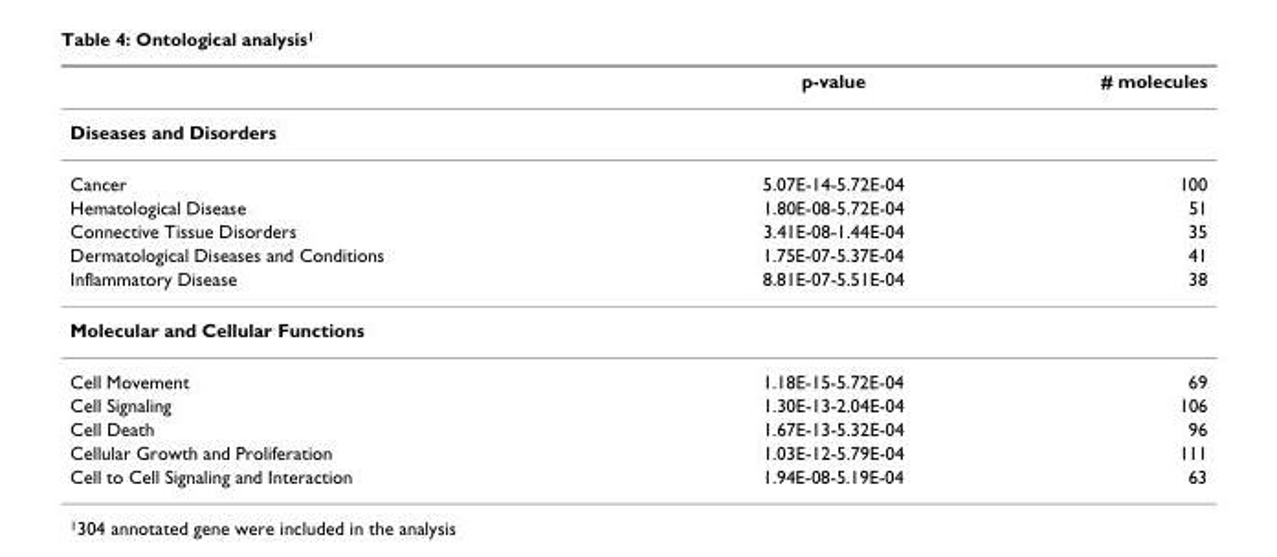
<table><thead><tr><td></td><td>p-value</td><td># molecules</td></tr></thead><tbody><tr><td colspan="3">Diseases and Disorders</td></tr><tr><td>Cancer</td><td>5.07E-14-5.72E-04</td><td>100</td></tr><tr><td>Hematological Disease</td><td>1.80E-08-5.72E-04</td><td>51</td></tr><tr><td>Connective Tissue Disorders</td><td>3.41E-08-1.44E-04</td><td>35</td></tr><tr><td>Dermatological Diseases and Conditions</td><td>1.75E-07-5.37E-04</td><td>41</td></tr><tr><td>Inflammatory Disease</td><td>8.81E-07-5.51E-04</td><td>38</td></tr><tr><td colspan="3">Molecular and Cellular Functions</td></tr><tr><td>Cell Movement</td><td>1.18E-15-5.72E-04</td><td>69</td></tr><tr><td>Cell Signaling</td><td>1.30E-13-2.04E-04</td><td>106</td></tr><tr><td>Cell Death</td><td>1.67E-13-5.32E-04</td><td>96</td></tr><tr><td>Cellular Growth and Proliferation</td><td>1.03E-12-5.79E-04</td><td>111</td></tr><tr><td>Cell to Cell Signaling and Interaction</td><td>1.94E-08-5.19E-04</td><td>63</td></tr></tbody></table>